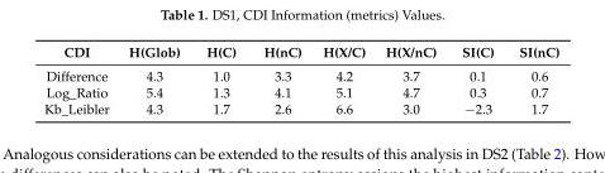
<table><thead><tr><td>CDI</td><td>H(Glob)</td><td>H(C)</td><td>H(nC)</td><td>H(X/C)</td><td>H(X/nC)</td><td>SI(C)</td><td>SI(nC)</td></tr></thead><tbody><tr><td>Difference</td><td>4.3</td><td>1.0</td><td>3.3</td><td>4.2</td><td>3.7</td><td>0.1</td><td>0.6</td></tr><tr><td>Log_Ratio</td><td>5.4</td><td>1.3</td><td>4.1</td><td>5.1</td><td>4.7</td><td>0.3</td><td>0.7</td></tr><tr><td>Kb_Leibler</td><td>4.3</td><td>1.7</td><td>2.6</td><td>6.6</td><td>3.0</td><td>−2.3</td><td>1.7</td></tr></tbody></table>